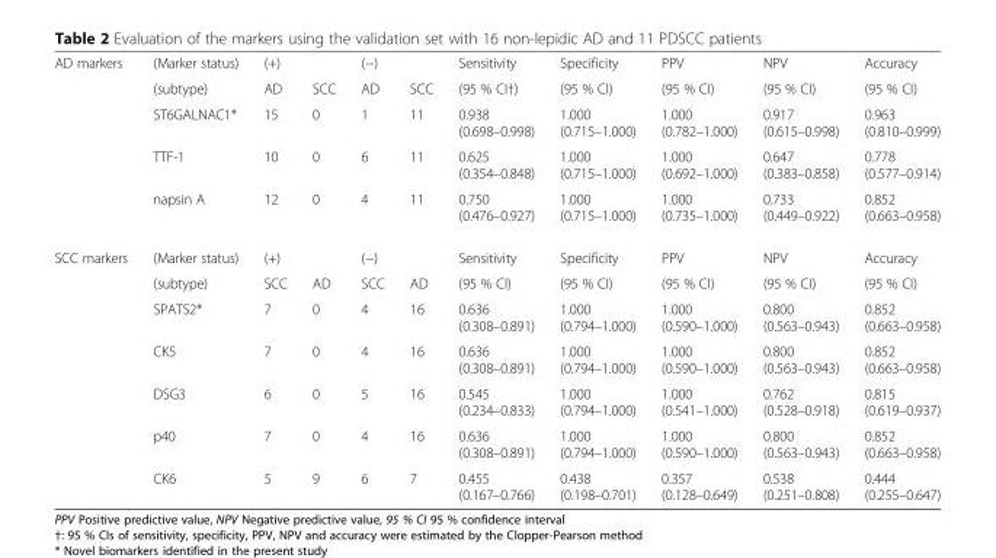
<table><tbody><tr><td rowspan="5">AD markers</td><td>(Marker status)</td><td colspan="2">(+)</td><td colspan="2">(−)</td><td>Sensitivity</td><td>Specificity</td><td>PPV</td><td>NPV</td><td>Accuracy</td></tr><tr><td>(subtype)</td><td>AD</td><td>SCC</td><td>AD</td><td>SCC</td><td>(95 % CI†)</td><td>(95 % CI)</td><td>(95 % CI)</td><td>(95 % CI)</td><td>(95 % CI)</td></tr><tr><td>ST6GALNAC1*</td><td>15</td><td>0</td><td>1</td><td>11</td><td>0.938 (0.698–0.998)</td><td>1.000 (0.715–1.000)</td><td>1.000 (0.782–1.000)</td><td>0.917 (0.615–0.998)</td><td>0.963 (0.810–0.999)</td></tr><tr><td>TTF-1</td><td>10</td><td>0</td><td>6</td><td>11</td><td>0.625 (0.354–0.848)</td><td>1.000 (0.715–1.000)</td><td>1.000 (0.692–1.000)</td><td>0.647 (0.383–0.858)</td><td>0.778 (0.577–0.914)</td></tr><tr><td>napsin A</td><td>12</td><td>0</td><td>4</td><td>11</td><td>0.750 (0.476–0.927)</td><td>1.000 (0.715–1.000)</td><td>1.000 (0.735–1.000)</td><td>0.733 (0.449–0.922)</td><td>0.852 (0.663–0.958)</td></tr><tr><td rowspan="7">SCC markers</td><td>(Marker status)</td><td colspan="2">(+)</td><td colspan="2">(−)</td><td>Sensitivity</td><td>Specificity</td><td>PPV</td><td>NPV</td><td>Accuracy</td></tr><tr><td>(subtype)</td><td>SCC</td><td>AD</td><td>SCC</td><td>AD</td><td>(95 % CI)</td><td>(95 % CI)</td><td>(95 % CI)</td><td>(95 % CI)</td><td>(95 % CI)</td></tr><tr><td>SPATS2*</td><td>7</td><td>0</td><td>4</td><td>16</td><td>0.636 (0.308–0.891)</td><td>1.000 (0.794–1.000)</td><td>1.000 (0.590–1.000)</td><td>0.800 (0.563–0.943)</td><td>0.852 (0.663–0.958)</td></tr><tr><td>CK5</td><td>7</td><td>0</td><td>4</td><td>16</td><td>0.636 (0.308–0.891)</td><td>1.000 (0.794–1.000)</td><td>1.000 (0.590–1.000)</td><td>0.800 (0.563–0.943)</td><td>0.852 (0.663–0.958)</td></tr><tr><td>DSG3</td><td>6</td><td>0</td><td>5</td><td>16</td><td>0.545 (0.234–0.833)</td><td>1.000 (0.794–1.000)</td><td>1.000 (0.541–1.000)</td><td>0.762 (0.528–0.918)</td><td>0.815 (0.619–0.937)</td></tr><tr><td>p40</td><td>7</td><td>0</td><td>4</td><td>16</td><td>0.636 (0.308–0.891)</td><td>1.000 (0.794–1.000)</td><td>1.000 (0.590–1.000)</td><td>0.800 (0.563–0.943)</td><td>0.852 (0.663–0.958)</td></tr><tr><td>CK6</td><td>5</td><td>9</td><td>6</td><td>7</td><td>0.455 (0.167–0.766)</td><td>0.438 (0.198–0.701)</td><td>0.357 (0.128–0.649)</td><td>0.538 (0.251–0.808)</td><td>0.444 (0.255–0.647)</td></tr></tbody></table>